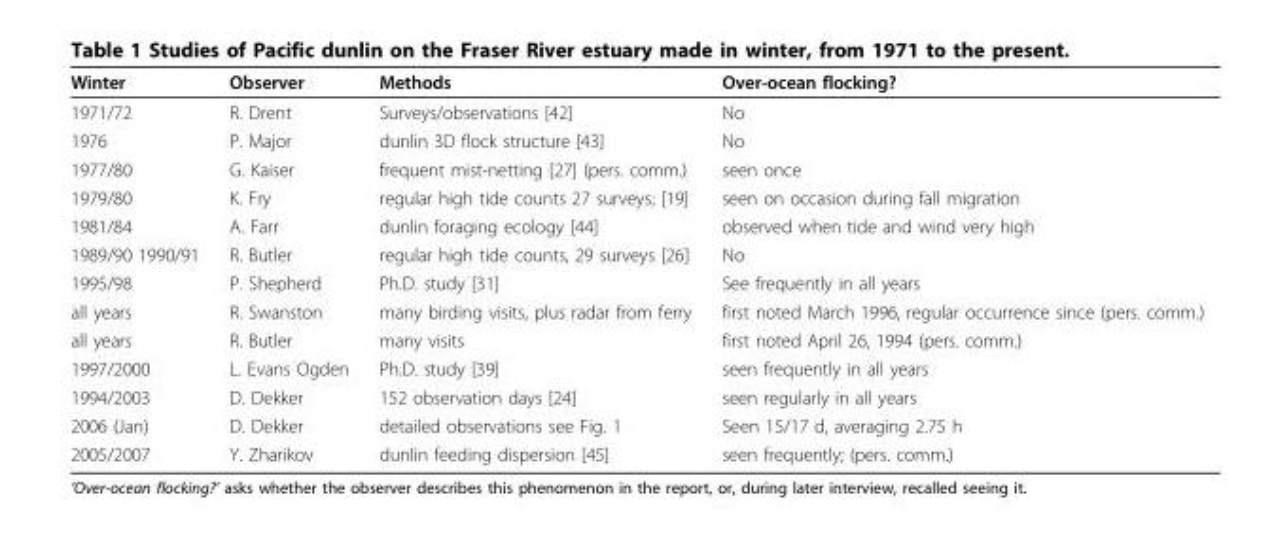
<table><thead><tr><td>Winter</td><td>Observer</td><td>Methods</td><td>Over-ocean flocking?</td></tr></thead><tbody><tr><td>1971/72</td><td>R. Drent</td><td>Surveys/observations [42]</td><td>No</td></tr><tr><td>1976</td><td>P. Major</td><td>dunlin 3D flock structure [43]</td><td>No</td></tr><tr><td>1977/80</td><td>G. Kaiser</td><td>frequent mist-netting [27] (pers. comm.)</td><td>seen once</td></tr><tr><td>1979/80</td><td>K. Fry</td><td>regular high tide counts 27 surveys; [19]</td><td>seen on occasion during fall migration</td></tr><tr><td>1981/84</td><td>A. Farr</td><td>dunlin foraging ecology [44]</td><td>observed when tide and wind very high</td></tr><tr><td>1989/90 1990/91</td><td>R. Butler</td><td>regular high tide counts, 29 surveys [26]</td><td>No</td></tr><tr><td>1995/98</td><td>P. Shepherd</td><td>Ph.D. study [31]</td><td>See frequently in all years</td></tr><tr><td>all years</td><td>R. Swanston</td><td>many birding visits, plus radar from ferry</td><td>first noted March 1996, regular occurrence since (pers. comm.)</td></tr><tr><td>all years</td><td>R. Butler</td><td>many visits</td><td>first noted April 26, 1994 (pers. comm.)</td></tr><tr><td>1997/2000</td><td>L. Evans Ogden</td><td>Ph.D. study [39]</td><td>seen frequently in all years</td></tr><tr><td>1994/2003</td><td>D. Dekker</td><td>152 observation days [24]</td><td>seen regularly in all years</td></tr><tr><td>2006 (Jan)</td><td>D. Dekker</td><td>detailed observations see Fig. 1</td><td>Seen 15/17 d, averaging 2.75 h</td></tr><tr><td>2005/2007</td><td>Y. Zharikov</td><td>dunlin feeding dispersion [45]</td><td>seen frequently; (pers. comm.)</td></tr></tbody></table>